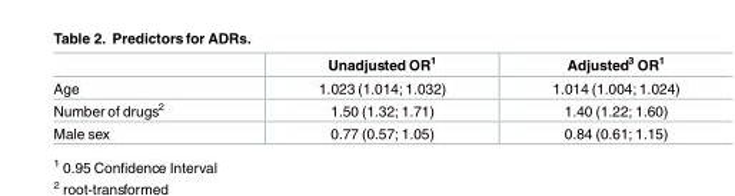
<table><thead><tr><td></td><td>Unadjusted OR<sup>1</sup></td><td>Adjusted<sup>3</sup> OR<sup>1</sup></td></tr></thead><tbody><tr><td>Age</td><td>1.023 (1.014; 1.032)</td><td>1.014 (1.004; 1.024)</td></tr><tr><td>Number of drugs<sup>2</sup></td><td>1.50 (1.32; 1.71)</td><td>1.40 (1.22; 1.60)</td></tr><tr><td>Male sex</td><td>0.77 (0.57; 1.05)</td><td>0.84 (0.61; 1.15)</td></tr></tbody></table>